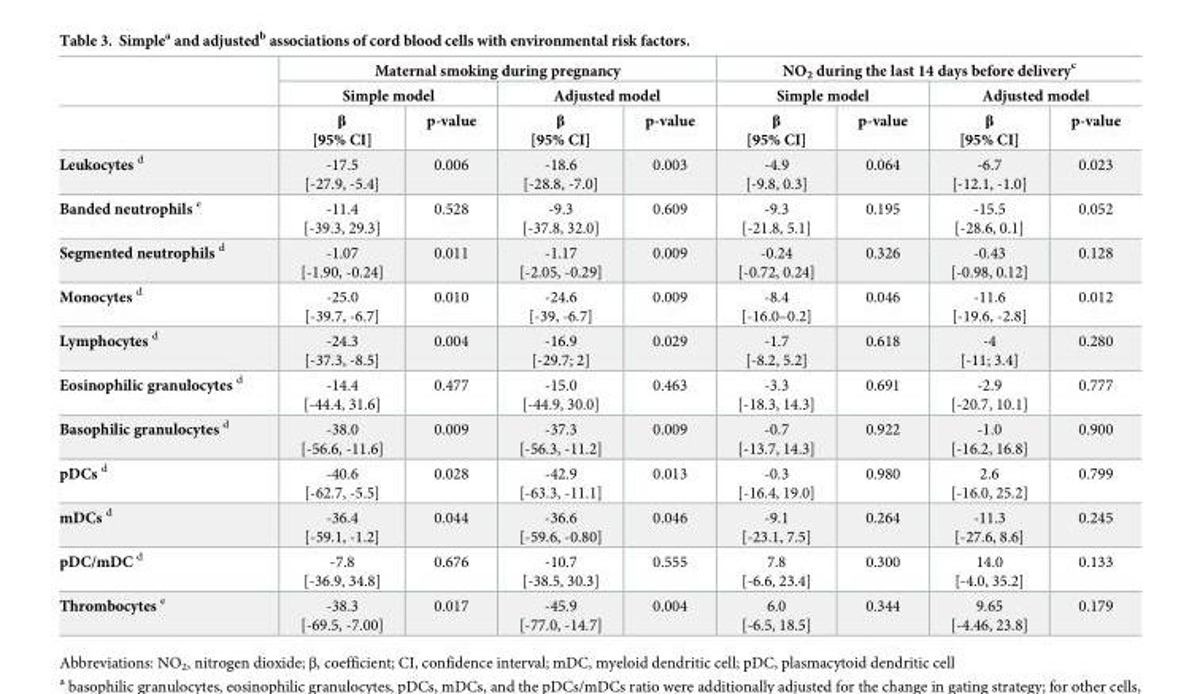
<table><thead><tr><td rowspan="3"></td><td colspan="4">Maternal smoking during pregnancy</td><td colspan="4">NO<sub>2</sub> during the last 14 days before delivery<sup>c</sup></td></tr><tr><td colspan="2">Simple model</td><td colspan="2">Adjusted model</td><td colspan="2">Simple model</td><td colspan="2">Adjusted model</td></tr><tr><td>β [95% CI]</td><td>p-value</td><td>β [95% CI]</td><td>p-value</td><td>β [95% CI]</td><td>p-value</td><td>β [95% CI]</td><td>p-value</td></tr></thead><tbody><tr><td>Leukocytes <sup>d</sup></td><td>-17.5 [-27.9, -5.4]</td><td>0.006</td><td>-18.6 [-28.8, -7.0]</td><td>0.003</td><td>-4.9 [-9.8, 0.3]</td><td>0.064</td><td>-6.7 [-12.1, -1.0]</td><td>0.023</td></tr><tr><td>Banded neutrophils <sup>e</sup></td><td>-11.4 [-39.3, 29.3]</td><td>0.528</td><td>-9.3 [-37.8, 32.0]</td><td>0.609</td><td>-9.3 [-21.8, 5.1]</td><td>0.195</td><td>-15.5 [-28.6, 0.1]</td><td>0.052</td></tr><tr><td>Segmented neutrophils <sup>d</sup></td><td>-1.07 [-1.90, -0.24]</td><td>0.011</td><td>-1.17 [-2.05, -0.29]</td><td>0.009</td><td>-0.24 [-0.72, 0.24]</td><td>0.326</td><td>-0.43 [-0.98, 0.12]</td><td>0.128</td></tr><tr><td>Monocytes <sup>d</sup></td><td>-25.0 [-39.7, -6.7]</td><td>0.010</td><td>-24.6 [-39, -6.7]</td><td>0.009</td><td>-8.4 [-16.0–0.2]</td><td>0.046</td><td>-11.6 [-19.6, -2.8]</td><td>0.012</td></tr><tr><td>Lymphocytes <sup>d</sup></td><td>-24.3 [-37.3, -8.5]</td><td>0.004</td><td>-16.9 [-29.7; 2]</td><td>0.029</td><td>-1.7 [-8.2, 5.2]</td><td>0.618</td><td>-4 [-11; 3.4]</td><td>0.280</td></tr><tr><td>Eosinophilic granulocytes <sup>d</sup></td><td>-14.4 [-44.4, 31.6]</td><td>0.477</td><td>-15.0 [-44.9, 30.0]</td><td>0.463</td><td>-3.3 [-18.3, 14.3]</td><td>0.691</td><td>-2.9 [-20.7, 10.1]</td><td>0.777</td></tr><tr><td>Basophilic granulocytes <sup>d</sup></td><td>-38.0 [-56.6, -11.6]</td><td>0.009</td><td>-37.3 [-56.3, -11.2]</td><td>0.009</td><td>-0.7 [-13.7, 14.3]</td><td>0.922</td><td>-1.0 [-16.2, 16.8]</td><td>0.900</td></tr><tr><td>pDCs <sup>d</sup></td><td>-40.6 [-62.7, -5.5]</td><td>0.028</td><td>-42.9 [-63.3, -11.1]</td><td>0.013</td><td>-0.3 [-16.4, 19.0]</td><td>0.980</td><td>2.6 [-16.0, 25.2]</td><td>0.799</td></tr><tr><td>mDCs <sup>d</sup></td><td>-36.4 [-59.1, -1.2]</td><td>0.044</td><td>-36.6 [-59.6, -0.80]</td><td>0.046</td><td>-9.1 [-23.1, 7.5]</td><td>0.264</td><td>-11.3 [-27.6, 8.6]</td><td>0.245</td></tr><tr><td>pDC/mDC <sup>d</sup></td><td>-7.8 [-36.9, 34.8]</td><td>0.676</td><td>-10.7 [-38.5, 30.3]</td><td>0.555</td><td>7.8 [-6.6, 23.4]</td><td>0.300</td><td>14.0 [-4.0, 35.2]</td><td>0.133</td></tr><tr><td>Thrombocytes <sup>e</sup></td><td>-38.3 [-69.5, -7.00]</td><td>0.017</td><td>-45.9 [-77.0, -14.7]</td><td>0.004</td><td>6.0 [-6.5, 18.5]</td><td>0.344</td><td>9.65 [-4.46, 23.8]</td><td>0.179</td></tr></tbody></table>